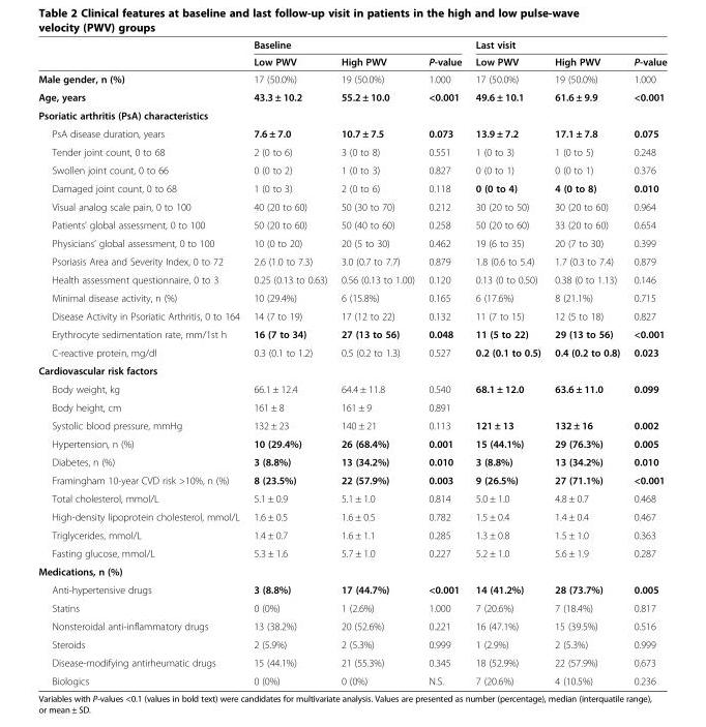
<table><thead><tr><td rowspan="2"></td><td colspan="3">Baseline</td><td colspan="3">Last visit</td></tr><tr><td>Low PWV</td><td>High PWV</td><td>P-value</td><td>Low PWV</td><td>High PWV</td><td>P-value</td></tr></thead><tbody><tr><td>Male gender, n (%)</td><td>17 (50.0%)</td><td>19 (50.0%)</td><td>1.000</td><td>17 (50.0%)</td><td>19 (50.0%)</td><td>1.000</td></tr><tr><td>Age, years</td><td>43.3 ± 10.2</td><td>55.2 ± 10.0</td><td>&lt;0.001</td><td>49.6 ± 10.1</td><td>61.6 ± 9.9</td><td>&lt;0.001</td></tr><tr><td colspan="7">Psoriatic arthritis (PsA) characteristics</td></tr><tr><td>PsA disease duration, years</td><td>7.6 ± 7.0</td><td>10.7 ± 7.5</td><td>0.073</td><td>13.9 ± 7.2</td><td>17.1 ± 7.8</td><td>0.075</td></tr><tr><td>Tender joint count, 0 to 68</td><td>2 (0 to 6)</td><td>3 (0 to 8)</td><td>0.551</td><td>1 (0 to 3)</td><td>1 (0 to 5)</td><td>0.248</td></tr><tr><td>Swollen joint count, 0 to 66</td><td>0 (0 to 2)</td><td>1 (0 to 3)</td><td>0.827</td><td>0 (0 to 1)</td><td>0 (0 to 1)</td><td>0.376</td></tr><tr><td>Damaged joint count, 0 to 68</td><td>1 (0 to 3)</td><td>2 (0 to 6)</td><td>0.118</td><td>0 (0 to 4)</td><td>4 (0 to 8)</td><td>0.010</td></tr><tr><td>Visual analog scale pain, 0 to 100</td><td>40 (20 to 60)</td><td>50 (30 to 70)</td><td>0.212</td><td>30 (20 to 50)</td><td>30 (20 to 60)</td><td>0.964</td></tr><tr><td>Patients’ global assessment, 0 to 100</td><td>50 (20 to 60)</td><td>50 (40 to 60)</td><td>0.258</td><td>50 (20 to 60)</td><td>33 (20 to 60)</td><td>0.654</td></tr><tr><td>Physicians’ global assessment, 0 to 100</td><td>10 (0 to 20)</td><td>20 (5 to 30)</td><td>0.462</td><td>19 (6 to 35)</td><td>20 (7 to 30)</td><td>0.399</td></tr><tr><td>Psoriasis Area and Severity Index, 0 to 72</td><td>2.6 (1.0 to 7.3)</td><td>3.0 (0.7 to 7.7)</td><td>0.879</td><td>1.8 (0.6 to 5.4)</td><td>1.7 (0.3 to 7.4)</td><td>0.879</td></tr><tr><td>Health assessment questionnaire, 0 to 3</td><td>0.25 (0.13 to 0.63)</td><td>0.56 (0.13 to 1.00)</td><td>0.120</td><td>0.13 (0 to 0.50)</td><td>0.38 (0 to 1.13)</td><td>0.146</td></tr><tr><td>Minimal disease activity, n (%)</td><td>10 (29.4%)</td><td>6 (15.8%)</td><td>0.165</td><td>6 (17.6%)</td><td>8 (21.1%)</td><td>0.715</td></tr><tr><td>Disease Activity in Psoriatic Arthritis, 0 to 164</td><td>14 (7 to 19)</td><td>17 (12 to 22)</td><td>0.132</td><td>11 (7 to 15)</td><td>12 (5 to 18)</td><td>0.827</td></tr><tr><td>Erythrocyte sedimentation rate, mm/1st h</td><td>16 (7 to 34)</td><td>27 (13 to 56)</td><td>0.048</td><td>11 (5 to 22)</td><td>29 (13 to 56)</td><td>&lt;0.001</td></tr><tr><td>C-reactive protein, mg/dl</td><td>0.3 (0.1 to 1.2)</td><td>0.5 (0.2 to 1.3)</td><td>0.527</td><td>0.2 (0.1 to 0.5)</td><td>0.4 (0.2 to 0.8)</td><td>0.023</td></tr><tr><td colspan="7">Cardiovascular risk factors</td></tr><tr><td>Body weight, kg</td><td>66.1 ± 12.4</td><td>64.4 ± 11.8</td><td>0.540</td><td>68.1 ± 12.0</td><td>63.6 ± 11.0</td><td>0.099</td></tr><tr><td>Body height, cm</td><td>161 ± 8</td><td>161 ± 9</td><td>0.891</td><td></td><td></td><td></td></tr><tr><td>Systolic blood pressure, mmHg</td><td>132 ± 23</td><td>140 ± 21</td><td>0.113</td><td>121 ± 13</td><td>132 ± 16</td><td>0.002</td></tr><tr><td>Hypertension, n (%)</td><td>10 (29.4%)</td><td>26 (68.4%)</td><td>0.001</td><td>15 (44.1%)</td><td>29 (76.3%)</td><td>0.005</td></tr><tr><td>Diabetes, n (%)</td><td>3 (8.8%)</td><td>13 (34.2%)</td><td>0.010</td><td>3 (8.8%)</td><td>13 (34.2%)</td><td>0.010</td></tr><tr><td>Framingham 10-year CVD risk &gt;10%, n (%)</td><td>8 (23.5%)</td><td>22 (57.9%)</td><td>0.003</td><td>9 (26.5%)</td><td>27 (71.1%)</td><td>&lt;0.001</td></tr><tr><td>Total cholesterol, mmol/L</td><td>5.1 ± 0.9</td><td>5.1 ± 1.0</td><td>0.814</td><td>5.0 ± 1.0</td><td>4.8 ± 0.7</td><td>0.468</td></tr><tr><td>High-density lipoprotein cholesterol, mmol/L</td><td>1.6 ± 0.5</td><td>1.6 ± 0.5</td><td>0.782</td><td>1.5 ± 0.4</td><td>1.4 ± 0.4</td><td>0.467</td></tr><tr><td>Triglycerides, mmol/L</td><td>1.4 ± 0.7</td><td>1.6 ± 1.1</td><td>0.285</td><td>1.3 ± 0.8</td><td>1.5 ± 1.0</td><td>0.363</td></tr><tr><td>Fasting glucose, mmol/L</td><td>5.3 ± 1.6</td><td>5.7 ± 1.0</td><td>0.227</td><td>5.2 ± 1.0</td><td>5.6 ± 1.9</td><td>0.287</td></tr><tr><td colspan="7">Medications, n (%)</td></tr><tr><td>Anti-hypertensive drugs</td><td>3 (8.8%)</td><td>17 (44.7%)</td><td>&lt;0.001</td><td>14 (41.2%)</td><td>28 (73.7%)</td><td>0.005</td></tr><tr><td>Statins</td><td>0 (0%)</td><td>1 (2.6%)</td><td>1.000</td><td>7 (20.6%)</td><td>7 (18.4%)</td><td>0.817</td></tr><tr><td>Nonsteroidal anti-inflammatory drugs</td><td>13 (38.2%)</td><td>20 (52.6%)</td><td>0.221</td><td>16 (47.1%)</td><td>15 (39.5%)</td><td>0.516</td></tr><tr><td>Steroids</td><td>2 (5.9%)</td><td>2 (5.3%)</td><td>0.999</td><td>1 (2.9%)</td><td>2 (5.3%)</td><td>0.999</td></tr><tr><td>Disease-modifying antirheumatic drugs</td><td>15 (44.1%)</td><td>21 (55.3%)</td><td>0.345</td><td>18 (52.9%)</td><td>22 (57.9%)</td><td>0.673</td></tr><tr><td>Biologics</td><td>0 (0%)</td><td>0 (0%)</td><td>N.S.</td><td>7 (20.6%)</td><td>4 (10.5%)</td><td>0.236</td></tr></tbody></table>